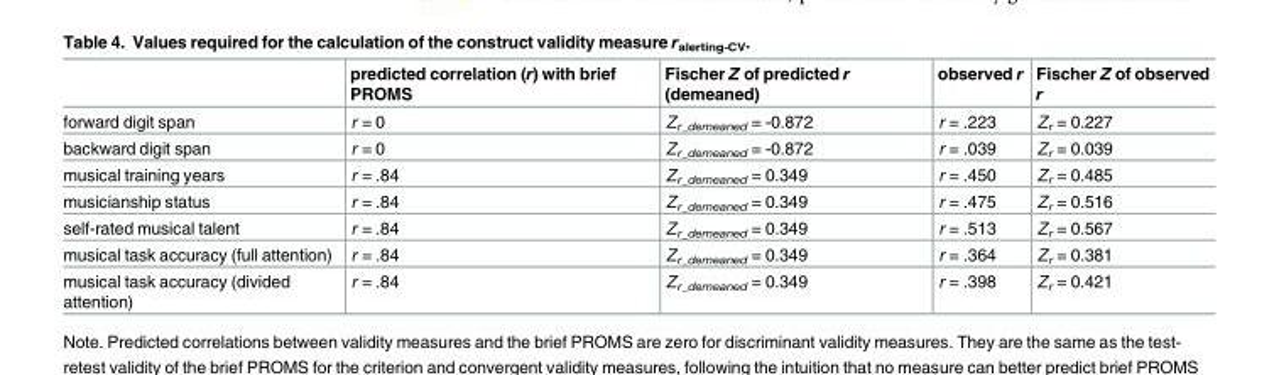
<table><thead><tr><td></td><td>predicted correlation (r) with brief PROMS</td><td>Fischer Z of predicted r (demeaned)</td><td>observed r</td><td>Fischer Z of observed r</td></tr></thead><tbody><tr><td>forward digit span</td><td>r = 0</td><td>Z<sub>r_demeaned</sub> = -0.872</td><td>r = .223</td><td>Z<sub>r</sub> = 0.227</td></tr><tr><td>backward digit span</td><td>r = 0</td><td>Z<sub>r_demeaned</sub> = -0.872</td><td>r = .039</td><td>Z<sub>r</sub> = 0.039</td></tr><tr><td>musical training years</td><td>r = .84</td><td>Z<sub>r_demeaned</sub> = 0.349</td><td>r = .450</td><td>Z<sub>r</sub> = 0.485</td></tr><tr><td>musicianship status</td><td>r = .84</td><td>Z<sub>r_demeaned</sub> = 0.349</td><td>r = .475</td><td>Z<sub>r</sub> = 0.516</td></tr><tr><td>self-rated musical talent</td><td>r = .84</td><td>Z<sub>r_demeaned</sub> = 0.349</td><td>r = .513</td><td>Z<sub>r</sub> = 0.567</td></tr><tr><td>musical task accuracy (full attention)</td><td>r = .84</td><td>Z<sub>r_demeaned</sub> = 0.349</td><td>r = .364</td><td>Z<sub>r</sub> = 0.381</td></tr><tr><td>musical task accuracy (divided attention)</td><td>r = .84</td><td>Z<sub>r_demeaned</sub> = 0.349</td><td>r = .398</td><td>Z<sub>r</sub> = 0.421</td></tr></tbody></table>